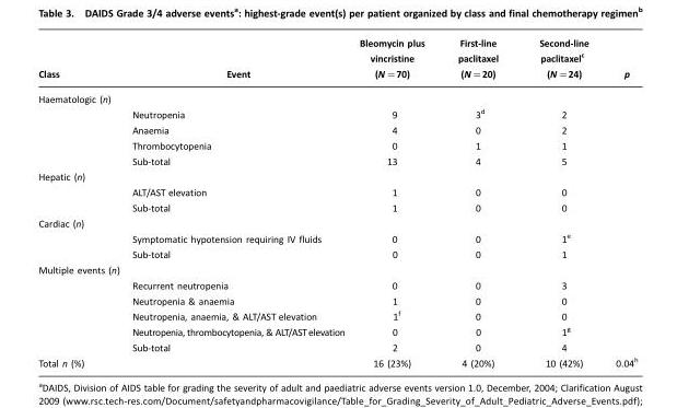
<table><thead><tr><td>Class</td><td>Event</td><td>Bleomycin plus vincristine (N=70)</td><td>First-line paclitaxel (N=20)</td><td>Second-line paclitaxel<sup>c</sup> (N=24)</td><td>p</td></tr></thead><tbody><tr><td colspan="6">Haematologic (n)</td></tr><tr><td></td><td>Neutropenia</td><td>9</td><td>3<sup>d</sup></td><td>2</td><td></td></tr><tr><td></td><td>Anaemia</td><td>4</td><td>0</td><td>2</td><td></td></tr><tr><td></td><td>Thrombocytopenia</td><td>0</td><td>1</td><td>1</td><td></td></tr><tr><td></td><td>Sub-total</td><td>13</td><td>4</td><td>5</td><td></td></tr><tr><td colspan="6">Hepatic (n)</td></tr><tr><td></td><td>ALT/AST elevation</td><td>1</td><td>0</td><td>0</td><td></td></tr><tr><td></td><td>Sub-total</td><td>1</td><td>0</td><td>0</td><td></td></tr><tr><td colspan="6">Cardiac (n)</td></tr><tr><td></td><td>Symptomatic hypotension requiring IV fluids</td><td>0</td><td>0</td><td>1<sup>e</sup></td><td></td></tr><tr><td></td><td>Sub-total</td><td>0</td><td>0</td><td>1</td><td></td></tr><tr><td colspan="6">Multiple events (n)</td></tr><tr><td></td><td>Recurrent neutropenia</td><td>0</td><td>0</td><td>3</td><td></td></tr><tr><td></td><td>Neutropenia &amp; anaemia</td><td>1</td><td>0</td><td>0</td><td></td></tr><tr><td></td><td>Neutropenia, anaemia, &amp; ALT/AST elevation</td><td>1<sup>f</sup></td><td>0</td><td>0</td><td></td></tr><tr><td></td><td>Neutropenia, thrombocytopenia, &amp; ALT/ASTelevation</td><td>0</td><td>0</td><td>1<sup>g</sup></td><td></td></tr><tr><td></td><td>Sub-total</td><td>2</td><td>0</td><td>4</td><td></td></tr><tr><td>Total n (%)</td><td></td><td>16 (23%)</td><td>4 (20%)</td><td>10 (42%)</td><td>0.04<sup>h</sup></td></tr></tbody></table>